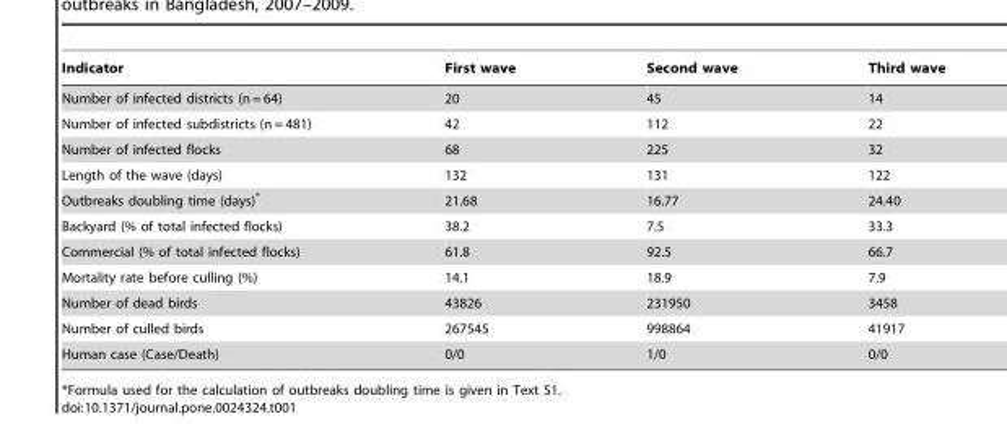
<table><thead><tr><td>Indicator</td><td>First wave</td><td>Second wave</td><td>Third wave</td></tr></thead><tbody><tr><td>Number of infected districts (n = 64)</td><td>20</td><td>45</td><td>14</td></tr><tr><td>Number of infected subdistricts (n = 481)</td><td>42</td><td>112</td><td>22</td></tr><tr><td>Number of infected flocks</td><td>68</td><td>225</td><td>32</td></tr><tr><td>Length of the wave (days)</td><td>132</td><td>131</td><td>122</td></tr><tr><td>Outbreaks doubling time (days)*</td><td>21.68</td><td>16.77</td><td>24.40</td></tr><tr><td>Backyard (% of total infected flocks)</td><td>38.2</td><td>7.5</td><td>33.3</td></tr><tr><td>Commercial (% of total infected flocks)</td><td>61.8</td><td>92.5</td><td>66.7</td></tr><tr><td>Mortality rate before culling (%)</td><td>14.1</td><td>18.9</td><td>7.9</td></tr><tr><td>Number of dead birds</td><td>43826</td><td>231950</td><td>3458</td></tr><tr><td>Number of culled birds</td><td>267545</td><td>998864</td><td>41917</td></tr><tr><td>Human case (Case/Death)</td><td>0/0</td><td>1/0</td><td>0/0</td></tr></tbody></table>